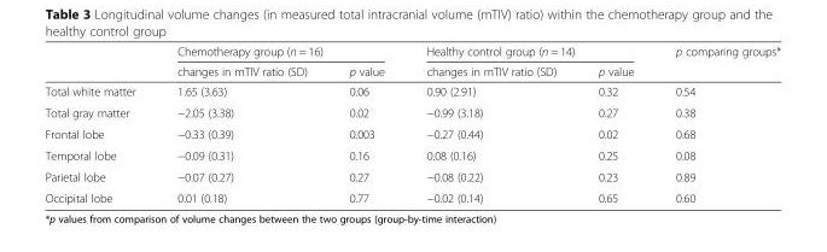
<table><thead><tr><td rowspan="2"></td><td colspan="2">Chemotherapy group (n = 16)</td><td colspan="2">Healthy control group (n = 14)</td><td rowspan="2">p comparing groups*</td></tr><tr><td>changes in mTIV ratio (SD)</td><td>p value</td><td>changes in mTIV ratio (SD)</td><td>p value</td></tr></thead><tbody><tr><td>Total white matter</td><td>1.65 (3.63)</td><td>0.06</td><td>0.90 (2.91)</td><td>0.32</td><td>0.54</td></tr><tr><td>Total gray matter</td><td>−2.05 (3.38)</td><td>0.02</td><td>−0.99 (3.18)</td><td>0.27</td><td>0.38</td></tr><tr><td>Frontal lobe</td><td>−0.33 (0.39)</td><td>0.003</td><td>−0.27 (0.44)</td><td>0.02</td><td>0.68</td></tr><tr><td>Temporal lobe</td><td>−0.09 (0.31)</td><td>0.16</td><td>0.08 (0.16)</td><td>0.25</td><td>0.08</td></tr><tr><td>Parietal lobe</td><td>−0.07 (0.27)</td><td>0.27</td><td>−0.08 (0.22)</td><td>0.23</td><td>0.89</td></tr><tr><td>Occipital lobe</td><td>0.01 (0.18)</td><td>0.77</td><td>−0.02 (0.14)</td><td>0.65</td><td>0.60</td></tr></tbody></table>